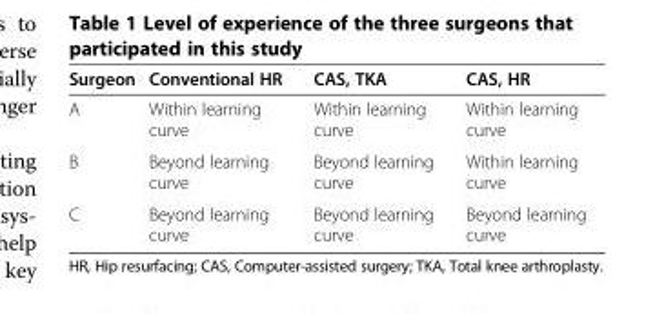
<table><thead><tr><td>Surgeon</td><td>Conventional HR</td><td>CAS, TKA</td><td>CAS, HR</td></tr></thead><tbody><tr><td>A</td><td>Within learning curve</td><td>Within learning curve</td><td>Within learning curve</td></tr><tr><td>B</td><td>Beyond learning curve</td><td>Beyond learning curve</td><td>Within learning curve</td></tr><tr><td>C</td><td>Beyond learning curve</td><td>Beyond learning curve</td><td>Beyond learning curve</td></tr></tbody></table>